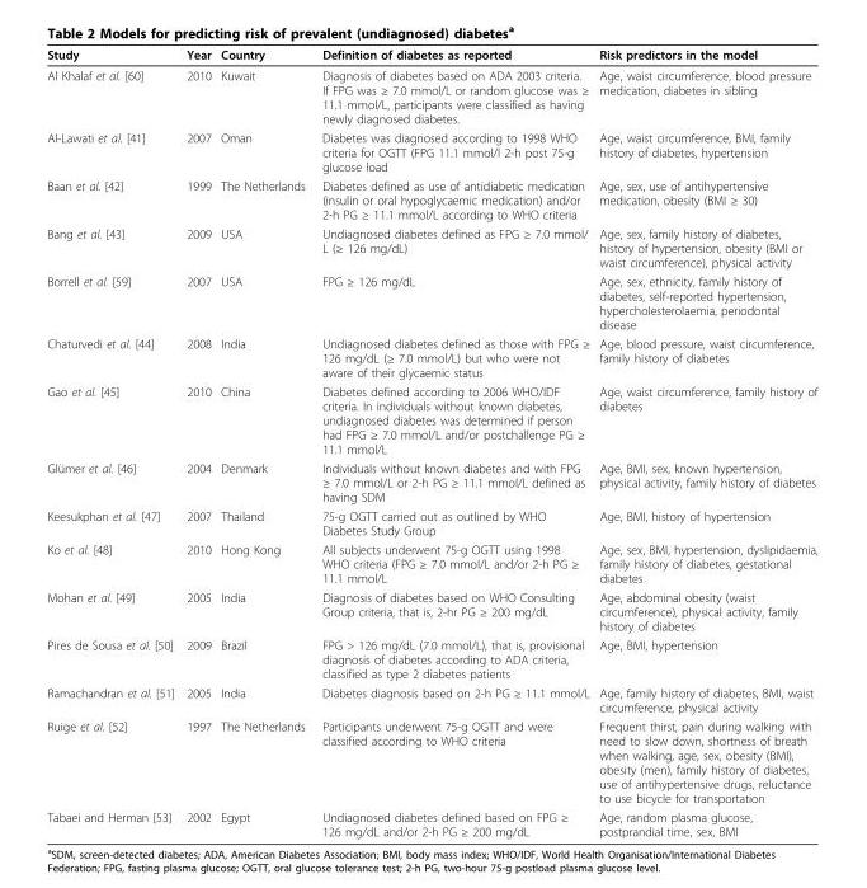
<table><thead><tr><td>Study</td><td>Year</td><td>Country</td><td>Definition of diabetes as reported</td><td>Risk predictors in the model</td></tr></thead><tbody><tr><td>Al Khalaf et al. [60]</td><td>2010</td><td>Kuwait</td><td>Diagnosis of diabetes based on ADA 2003 criteria. If FPG was ≥ 7.0 mmol/L or random glucose was ≥ 11.1 mmol/L, participants were classified as having newly diagnosed diabetes.</td><td>Age, waist circumference, blood pressure medication, diabetes in sibling</td></tr><tr><td>Al-Lawati et al. [41]</td><td>2007</td><td>Oman</td><td>Diabetes was diagnosed according to 1998 WHO criteria for OGTT (FPG 11.1 mmol/l 2-h post 75-g glucose load</td><td>Age, waist circumference, BMI, family history of diabetes, hypertension</td></tr><tr><td>Baan et al. [42]</td><td>1999</td><td>The Netherlands</td><td>Diabetes defined as use of antidiabetic medication (insulin or oral hypoglycaemic medication) and/or 2-h PG ≥ 11.1 mmol/L according to WHO criteria</td><td>Age, sex, use of antihypertensive medication, obesity (BMI ≥ 30)</td></tr><tr><td>Bang et al. [43]</td><td>2009</td><td>USA</td><td>Undiagnosed diabetes defined as FPG ≥ 7.0 mmol/ L (≥ 126 mg/dL)</td><td>Age, sex, family history of diabetes, history of hypertension, obesity (BMI or waist circumference), physical activity</td></tr><tr><td>Borrell et al. [59]</td><td>2007</td><td>USA</td><td>FPG ≥ 126 mg/dL</td><td>Age, sex, ethnicity, family history of diabetes, self-reported hypertension, hypercholesterolaemia, periodontal disease</td></tr><tr><td>Chaturvedi et al. [44]</td><td>2008</td><td>India</td><td>Undiagnosed diabetes defined as those with FPG ≥ 126 mg/dL (≥ 7.0 mmol/L) but who were not aware of their glycaemic status</td><td>Age, blood pressure, waist circumference, family history of diabetes</td></tr><tr><td>Gao et al. [45]</td><td>2010</td><td>China</td><td>Diabetes defined according to 2006 WHO/IDF criteria. In individuals without known diabetes, undiagnosed diabetes was determined if person had FPG ≥ 7.0 mmol/L and/or postchallenge PG ≥ 11.1 mmol/L</td><td>Age, waist circumference, family history of diabetes</td></tr><tr><td>Glümer et al. [46]</td><td>2004</td><td>Denmark</td><td>Individuals without known diabetes and with FPG ≥ 7.0 mmol/L or 2-h PG ≥ 11.1 mmol/L defined as having SDM</td><td>Age, BMI, sex, known hypertension, physical activity, family history of diabetes</td></tr><tr><td>Keesukphan et al. [47]</td><td>2007</td><td>Thailand</td><td>75-g OGTT carried out as outlined by WHO Diabetes Study Group</td><td>Age, BMI, history of hypertension</td></tr><tr><td>Ko et al. [48]</td><td>2010</td><td>Hong Kong</td><td>All subjects underwent 75-g OGTT using 1998 WHO criteria (FPG ≥ 7.0 mmol/L and/or 2-h PG ≥ 11.1 mmol/L</td><td>Age, sex, BMI, hypertension, dyslipidaemia, family history of diabetes, gestational diabetes</td></tr><tr><td>Mohan et al. [49]</td><td>2005</td><td>India</td><td>Diagnosis of diabetes based on WHO Consulting Group criteria, that is, 2-hr PG ≥ 200 mg/dL</td><td>Age, abdominal obesity (waist circumference), physical activity, family history of diabetes</td></tr><tr><td>Pires de Sousa et al. [50]</td><td>2009</td><td>Brazil</td><td>FPG &gt; 126 mg/dL (7.0 mmol/L), that is, provisional diagnosis of diabetes according to ADA criteria, classified as type 2 diabetes patients</td><td>Age, BMI, hypertension</td></tr><tr><td>Ramachandran et al. [51]</td><td>2005</td><td>India</td><td>Diabetes diagnosis based on 2-h PG ≥ 11.1 mmol/L</td><td>Age, family history of diabetes, BMI, waist circumference, physical activity</td></tr><tr><td>Ruige et al. [52]</td><td>1997</td><td>The Netherlands</td><td>Participants underwent 75-g OGTT and were classified according to WHO criteria</td><td>Frequent thirst, pain during walking with need to slow down, shortness of breath when walking, age, sex, obesity (BMI), obesity (men), family history of diabetes, use of antihypertensive drugs, reluctance to use bicycle for transportation</td></tr><tr><td>Tabaei and Herman [53]</td><td>2002</td><td>Egypt</td><td>Undiagnosed diabetes defined based on FPG ≥ 126 mg/dL and/or 2-h PG ≥ 200 mg/dL</td><td>Age, random plasma glucose, postprandial time, sex, BMI</td></tr></tbody></table>